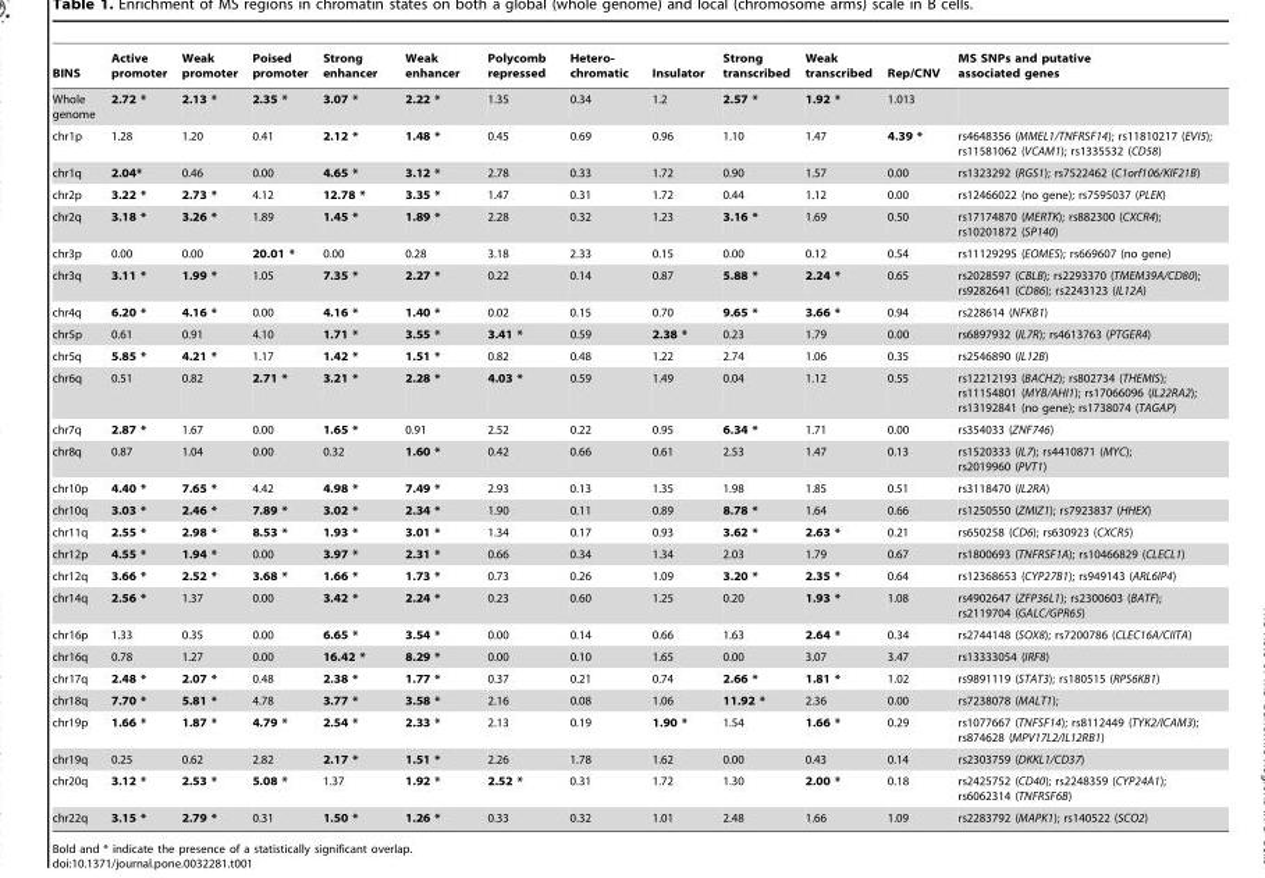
<table><thead><tr><td>BINS</td><td>Active promoter</td><td>Weak promoter</td><td>Poised promoter</td><td>Strong enhancer</td><td>Weak enhancer</td><td>Polycomb repressed</td><td>Hetero- chromatic</td><td>Insulator</td><td>Strong transcribed</td><td>Weak transcribed</td><td>Rep/CNV</td><td>MS SNPs and putative associated genes</td></tr></thead><tbody><tr><td>Whole genome</td><td>2.72 *</td><td>2.13 *</td><td>2.35 *</td><td>3.07 *</td><td>2.22 *</td><td>1.35</td><td>0.34</td><td>1.2</td><td>2.57 *</td><td>1.92 *</td><td>1.013</td><td></td></tr><tr><td>chr1p</td><td>1.28</td><td>1.20</td><td>0.41</td><td>2.12 *</td><td>1.48 *</td><td>0.45</td><td>0.69</td><td>0.96</td><td>1.10</td><td>1.47</td><td>4.39 *</td><td>rs4648356 (MMEL1/TNFRSF14); rs11810217 (EVI5); rs11581062 (VCAM1); rs1335532 (CD58)</td></tr><tr><td>chr1q</td><td>2.04*</td><td>0.46</td><td>0.00</td><td>4.65 *</td><td>3.12 *</td><td>2.78</td><td>0.33</td><td>1.72</td><td>0.90</td><td>1.57</td><td>0.00</td><td>rs1323292 (RGS1); rs7522462 (C1orf106/KIF21B)</td></tr><tr><td>chr2p</td><td>3.22 *</td><td>2.73 *</td><td>4.12</td><td>12.78 *</td><td>3.35 *</td><td>1.47</td><td>0.31</td><td>1.72</td><td>0.44</td><td>1.12</td><td>0.00</td><td>rs12466022 (no gene); rs7595037 (PLEK)</td></tr><tr><td>chr2q</td><td>3.18 *</td><td>3.26 *</td><td>1.89</td><td>1.45 *</td><td>1.89 *</td><td>2.28</td><td>0.32</td><td>1.23</td><td>3.16 *</td><td>1.69</td><td>0.50</td><td>rs17174870 (MERTK); rs882300 (CXCR4); rs10201872 (SP140)</td></tr><tr><td>chr3p</td><td>0.00</td><td>0.00</td><td>20.01 *</td><td>0.00</td><td>0.28</td><td>3.18</td><td>2.33</td><td>0.15</td><td>0.00</td><td>0.12</td><td>0.54</td><td>rs11129295 (EOMES); rs669607 (no gene)</td></tr><tr><td>chr3q</td><td>3.11 *</td><td>1.99 *</td><td>1.05</td><td>7.35 *</td><td>2.27 *</td><td>0.22</td><td>0.14</td><td>0.87</td><td>5.88 *</td><td>2.24 *</td><td>0.65</td><td>rs2028597 (CBLB); rs2293370 (TMEM39A/CD80); rs9282641 (CD86); rs2243123 (IL12A)</td></tr><tr><td>chr4q</td><td>6.20 *</td><td>4.16 *</td><td>0.00</td><td>4.16 *</td><td>1.40 *</td><td>0.02</td><td>0.15</td><td>0.70</td><td>9.65 *</td><td>3.66 *</td><td>0.94</td><td>rs228614 (NFKB1)</td></tr><tr><td>chr5p</td><td>0.61</td><td>0.91</td><td>4.10</td><td>1.71 *</td><td>3.55 *</td><td>3.41 *</td><td>0.59</td><td>2.38 *</td><td>0.23</td><td>1.79</td><td>0.00</td><td>rs6897932 (IL7R); rs4613763 (PTGER4)</td></tr><tr><td>chr5q</td><td>5.85 *</td><td>4.21 *</td><td>1.17</td><td>1.42 *</td><td>1.51 *</td><td>0.82</td><td>0.48</td><td>1.22</td><td>2.74</td><td>1.06</td><td>0.35</td><td>rs2546890 (IL12B)</td></tr><tr><td>chr6q</td><td>0.51</td><td>0.82</td><td>2.71 *</td><td>3.21 *</td><td>2.28 *</td><td>4.03 *</td><td>0.59</td><td>1.49</td><td>0.04</td><td>1.12</td><td>0.55</td><td>rs12212193 (BACH2); rs802734 (THEMIS); rs11154801 (MYB/AHI1); rs17066096 (IL22RA2); rs13192841 (no gene); rs1738074 (TAGAP)</td></tr><tr><td>chr7q</td><td>2.87 *</td><td>1.67</td><td>0.00</td><td>1.65 *</td><td>0.91</td><td>2.52</td><td>0.22</td><td>0.95</td><td>6.34 *</td><td>1.71</td><td>0.00</td><td>rs354033 (ZNF746)</td></tr><tr><td>chr8q</td><td>0.87</td><td>1.04</td><td>0.00</td><td>0.32</td><td>1.60 *</td><td>0.42</td><td>0.66</td><td>0.61</td><td>2.53</td><td>1.47</td><td>0.13</td><td>rs1520333 (IL7); rs4410871 (MYC); rs2019960 (PVT1)</td></tr><tr><td>chr10p</td><td>4.40 *</td><td>7.65 *</td><td>4.42</td><td>4.98 *</td><td>7.49 *</td><td>2.93</td><td>0.13</td><td>1.35</td><td>1.98</td><td>1.85</td><td>0.51</td><td>rs3118470 (IL2RA)</td></tr><tr><td>chr10q</td><td>3.03 *</td><td>2.46 *</td><td>7.89 *</td><td>3.02 *</td><td>2.34 *</td><td>1.90</td><td>0.11</td><td>0.89</td><td>8.78 *</td><td>1.64</td><td>0.66</td><td>rs1250550 (ZMIZ1); rs7923837 (HHEX)</td></tr><tr><td>chr11q</td><td>2.55 *</td><td>2.98 *</td><td>8.53 *</td><td>1.93 *</td><td>3.01 *</td><td>1.34</td><td>0.17</td><td>0.93</td><td>3.62 *</td><td>2.63 *</td><td>0.21</td><td>rs650258 (CD6); rs630923 (CXCR5)</td></tr><tr><td>chr12p</td><td>4.55 *</td><td>1.94 *</td><td>0.00</td><td>3.97 *</td><td>2.31 *</td><td>0.66</td><td>0.34</td><td>1.34</td><td>2.03</td><td>1.79</td><td>0.67</td><td>rs1800693 (TNFRSF1A); rs10466829 (CLECL1)</td></tr><tr><td>chr12q</td><td>3.66 *</td><td>2.52 *</td><td>3.68 *</td><td>1.66 *</td><td>1.73 *</td><td>0.73</td><td>0.26</td><td>1.09</td><td>3.20 *</td><td>2.35 *</td><td>0.64</td><td>rs12368653 (CYP27B1); rs949143 (ARL6IP4)</td></tr><tr><td>chr14q</td><td>2.56 *</td><td>1.37</td><td>0.00</td><td>3.42 *</td><td>2.24 *</td><td>0.23</td><td>0.60</td><td>1.25</td><td>0.20</td><td>1.93 *</td><td>1.08</td><td>rs4902647 (ZFP36L1); rs2300603 (BATF); rs2119704 (GALC/GPR65)</td></tr><tr><td>chr16p</td><td>1.33</td><td>0.35</td><td>0.00</td><td>6.65 *</td><td>3.54 *</td><td>0.00</td><td>0.14</td><td>0.66</td><td>1.63</td><td>2.64 *</td><td>0.34</td><td>rs2744148 (SOX8); rs7200786 (CLEC16A/CIITA)</td></tr><tr><td>chr16q</td><td>0.78</td><td>1.27</td><td>0.00</td><td>16.42 *</td><td>8.29 *</td><td>0.00</td><td>0.10</td><td>1.65</td><td>0.00</td><td>3.07</td><td>3.47</td><td>rs13333054 (IRF8)</td></tr><tr><td>chr17q</td><td>2.48 *</td><td>2.07 *</td><td>0.48</td><td>2.38 *</td><td>1.77 *</td><td>0.37</td><td>0.21</td><td>0.74</td><td>2.66 *</td><td>1.81 *</td><td>1.02</td><td>rs9891119 (STAT3); rs180515 (RPS6KB1)</td></tr><tr><td>chr18q</td><td>7.70 *</td><td>5.81 *</td><td>4.78</td><td>3.77 *</td><td>3.58 *</td><td>2.16</td><td>0.08</td><td>1.06</td><td>11.92 *</td><td>2.36</td><td>0.00</td><td>rs7238078 (MALT1);</td></tr><tr><td>chr19p</td><td>1.66 *</td><td>1.87 *</td><td>4.79 *</td><td>2.54 *</td><td>2.33 *</td><td>2.13</td><td>0.19</td><td>1.90 *</td><td>1.54</td><td>1.66 *</td><td>0.29</td><td>rs1077667 (TNFSF14); rs8112449 (TYK2/ICAM3); rs874628 (MPV17L2/IL12RB1)</td></tr><tr><td>chr19q</td><td>0.25</td><td>0.62</td><td>2.82</td><td>2.17 *</td><td>1.51 *</td><td>2.26</td><td>1.78</td><td>1.62</td><td>0.00</td><td>0.43</td><td>0.14</td><td>rs2303759 (DKKL1/CD37)</td></tr><tr><td>chr20q</td><td>3.12 *</td><td>2.53 *</td><td>5.08 *</td><td>1.37</td><td>1.92 *</td><td>2.52 *</td><td>0.31</td><td>1.72</td><td>1.30</td><td>2.00 *</td><td>0.18</td><td>rs2425752 (CD40); rs2248359 (CYP24A1); rs6062314 (TNFRSF6B)</td></tr><tr><td>chr22q</td><td>3.15 *</td><td>2.79 *</td><td>0.31</td><td>1.50 *</td><td>1.26 *</td><td>0.33</td><td>0.32</td><td>1.01</td><td>2.48</td><td>1.66</td><td>1.09</td><td>rs2283792 (MAPK1); rs140522 (SCO2)</td></tr></tbody></table>